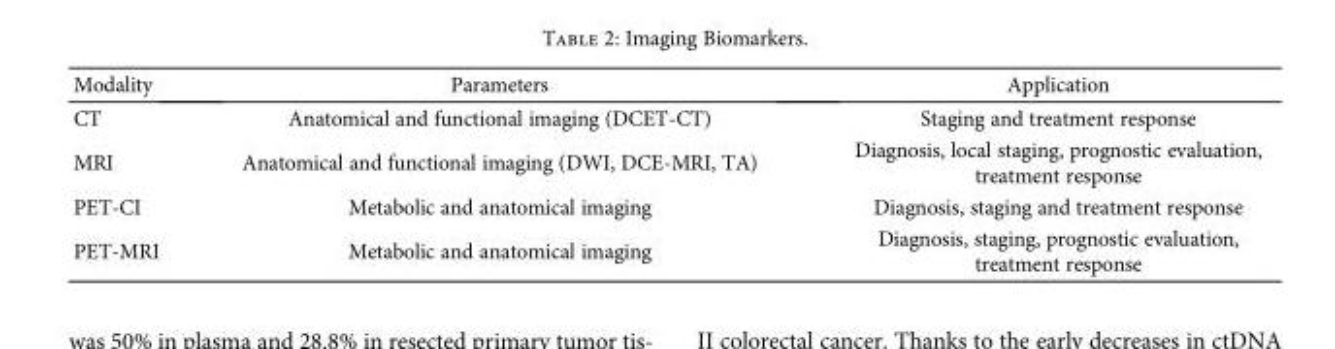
<table><thead><tr><td>Modality</td><td>Parameters</td><td>Application</td></tr></thead><tbody><tr><td>CT</td><td>Anatomical and functional imaging (DCET-CT)</td><td>Staging and treatment response</td></tr><tr><td>MRI</td><td>Anatomical and functional imaging (DWI, DCE-MRI, TA)</td><td>Diagnosis, local staging, prognostic evaluation, treatment response</td></tr><tr><td>PET-CI</td><td>Metabolic and anatomical imaging</td><td>Diagnosis, staging and treatment response</td></tr><tr><td>PET-MRI</td><td>Metabolic and anatomical imaging</td><td>Diagnosis, staging, prognostic evaluation, treatment response</td></tr></tbody></table>